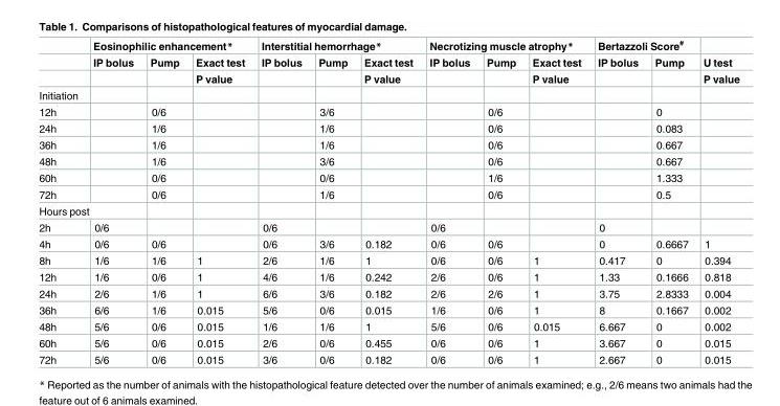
<table><thead><tr><td rowspan="3"></td><td colspan="3">Eosinophilic enhancement*</td><td colspan="3">Interstitial hemorrhage*</td><td colspan="3">Necrotizing muscle atrophy*</td><td colspan="2">Bertazzoli Score<sup>#</sup></td><td rowspan="3">U test P value</td></tr><tr><td rowspan="2">IP bolus</td><td rowspan="2">Pump</td><td rowspan="2">Exact test P value</td><td rowspan="2">IP bolus</td><td rowspan="2">Pump</td><td rowspan="2">Exact test P value</td><td rowspan="2">IP bolus</td><td rowspan="2">Pump</td><td rowspan="2">Exact test P value</td><td rowspan="2">IP bolus</td><td rowspan="2">Pump</td></tr><tr></tr></thead><tbody><tr><td colspan="13">Initiation</td></tr><tr><td>12h</td><td></td><td>0/6</td><td></td><td></td><td>3/6</td><td></td><td></td><td>0/6</td><td></td><td></td><td>0</td><td></td></tr><tr><td>24h</td><td></td><td>1/6</td><td></td><td></td><td>1/6</td><td></td><td></td><td>0/6</td><td></td><td></td><td>0.083</td><td></td></tr><tr><td>36h</td><td></td><td>1/6</td><td></td><td></td><td>1/6</td><td></td><td></td><td>0/6</td><td></td><td></td><td>0.667</td><td></td></tr><tr><td>48h</td><td></td><td>1/6</td><td></td><td></td><td>3/6</td><td></td><td></td><td>0/6</td><td></td><td></td><td>0.667</td><td></td></tr><tr><td>60h</td><td></td><td>0/6</td><td></td><td></td><td>0/6</td><td></td><td></td><td>1/6</td><td></td><td></td><td>1.333</td><td></td></tr><tr><td>72h</td><td></td><td>0/6</td><td></td><td></td><td>1/6</td><td></td><td></td><td>0/6</td><td></td><td></td><td>0.5</td><td></td></tr><tr><td colspan="13">Hours post</td></tr><tr><td>2h</td><td>0/6</td><td></td><td></td><td>0/6</td><td></td><td></td><td>0/6</td><td></td><td></td><td>0</td><td></td><td></td></tr><tr><td>4h</td><td>0/6</td><td>0/6</td><td></td><td>0/6</td><td>3/6</td><td>0.182</td><td>0/6</td><td>0/6</td><td></td><td>0</td><td>0.6667</td><td>1</td></tr><tr><td>8h</td><td>1/6</td><td>1/6</td><td>1</td><td>2/6</td><td>1/6</td><td>1</td><td>0/6</td><td>0/6</td><td>1</td><td>0.417</td><td>0</td><td>0.394</td></tr><tr><td>12h</td><td>1/6</td><td>0/6</td><td>1</td><td>4/6</td><td>1/6</td><td>0.242</td><td>2/6</td><td>0/6</td><td>1</td><td>1.33</td><td>0.1666</td><td>0.818</td></tr><tr><td>24h</td><td>2/6</td><td>1/6</td><td>1</td><td>6/6</td><td>3/6</td><td>0.182</td><td>2/6</td><td>2/6</td><td>1</td><td>3.75</td><td>2.8333</td><td>0.004</td></tr><tr><td>36h</td><td>6/6</td><td>1/6</td><td>0.015</td><td>5/6</td><td>0/6</td><td>0.015</td><td>1/6</td><td>0/6</td><td>1</td><td>8</td><td>0.1667</td><td>0.002</td></tr><tr><td>48h</td><td>5/6</td><td>0/6</td><td>0.015</td><td>1/6</td><td>1/6</td><td>1</td><td>5/6</td><td>0/6</td><td>0.015</td><td>6.667</td><td>0</td><td>0.002</td></tr><tr><td>60h</td><td>5/6</td><td>0/6</td><td>0.015</td><td>2/6</td><td>0/6</td><td>0.455</td><td>0/6</td><td>0/6</td><td>1</td><td>3.667</td><td>0</td><td>0.015</td></tr><tr><td>72h</td><td>5/6</td><td>0/6</td><td>0.015</td><td>3/6</td><td>0/6</td><td>0.182</td><td>0/6</td><td>0/6</td><td>1</td><td>2.667</td><td>0</td><td>0.015</td></tr></tbody></table>